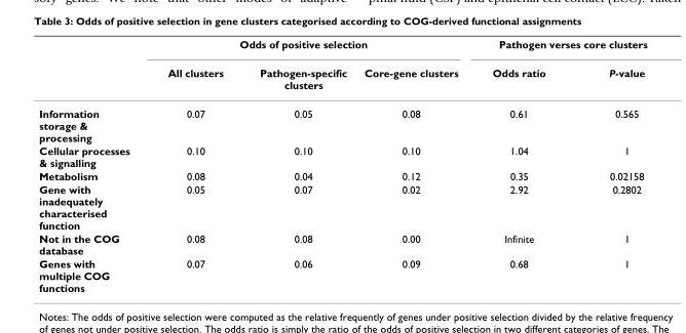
<table><thead><tr><td rowspan="2"></td><td colspan="3">Odds of positive selection</td><td colspan="2">Pathogen verses core clusters</td></tr><tr><td>All clusters</td><td>Pathogen-specific clusters</td><td>Core-gene clusters</td><td>Odds ratio</td><td>P-value</td></tr></thead><tbody><tr><td>Information storage &amp; processing</td><td>0.07</td><td>0.05</td><td>0.08</td><td>0.61</td><td>0.565</td></tr><tr><td>Cellular processes &amp; signalling</td><td>0.10</td><td>0.10</td><td>0.10</td><td>1.04</td><td>1</td></tr><tr><td>Metabolism</td><td>0.08</td><td>0.04</td><td>0.12</td><td>0.35</td><td>0.02158</td></tr><tr><td>Gene with inadequately characterised function</td><td>0.05</td><td>0.07</td><td>0.02</td><td>2.92</td><td>0.2802</td></tr><tr><td>Not in the COG database</td><td>0.08</td><td>0.08</td><td>0.00</td><td>Infinite</td><td>1</td></tr><tr><td>Genes with multiple COG functions</td><td>0.07</td><td>0.06</td><td>0.09</td><td>0.68</td><td>1</td></tr></tbody></table>